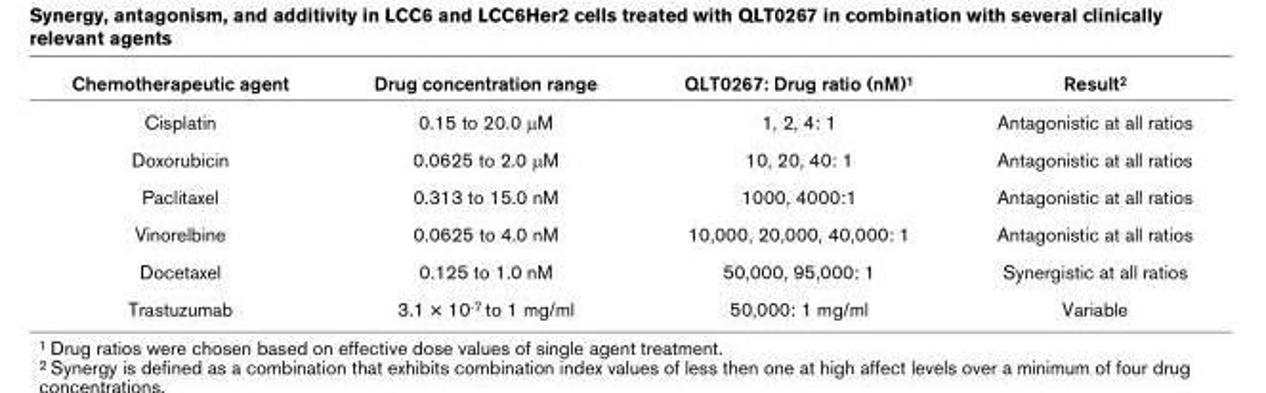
<table><thead><tr><td>Chemotherapeutic agent</td><td>Drug concentration range</td><td>QLT0267: Drug ratio (nM)<sup>1</sup></td><td>Result<sup>2</sup></td></tr></thead><tbody><tr><td>Cisplatin</td><td>0.15 to 20.0 μM</td><td>1, 2, 4: 1</td><td>Antagonistic at all ratios</td></tr><tr><td>Doxorubicin</td><td>0.0625 to 2.0 μM</td><td>10, 20, 40: 1</td><td>Antagonistic at all ratios</td></tr><tr><td>Paclitaxel</td><td>0.313 to 15.0 nM</td><td>1000, 4000:1</td><td>Antagonistic at all ratios</td></tr><tr><td>Vinorelbine</td><td>0.0625 to 4.0 nM</td><td>10,000, 20,000, 40,000: 1</td><td>Antagonistic at all ratios</td></tr><tr><td>Docetaxel</td><td>0.125 to 1.0 nM</td><td>50,000, 95,000: 1</td><td>Synergistic at all ratios</td></tr><tr><td>Trastuzumab</td><td>3.1 × 10<sup>-7</sup> to 1 mg/ml</td><td>50,000: 1 mg/ml</td><td>Variable</td></tr></tbody></table>